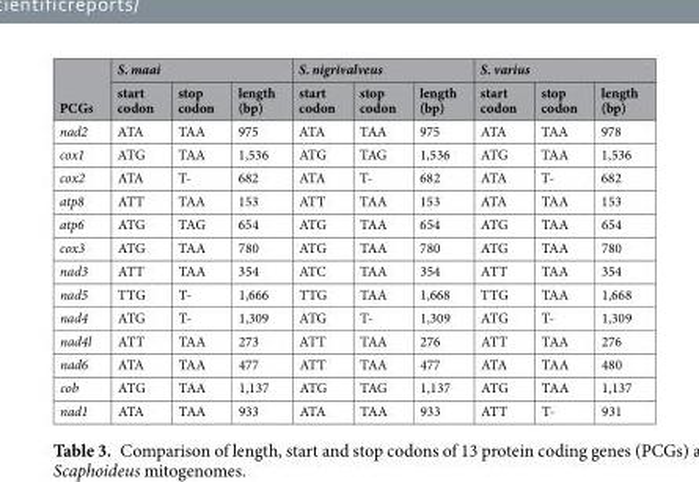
<table><thead><tr><td rowspan="2">PCGs</td><td colspan="3">S. maai</td><td colspan="3">S. nigrivalveus</td><td colspan="3">S. varius</td></tr><tr><td>start codon</td><td>stop codon</td><td>length (bp)</td><td>start codon</td><td>stop codon</td><td>length (bp)</td><td>start codon</td><td>stop codon</td><td>length (bp)</td></tr></thead><tbody><tr><td>nad2</td><td>ATA</td><td>TAA</td><td>975</td><td>ATA</td><td>TAA</td><td>975</td><td>ATA</td><td>TAA</td><td>978</td></tr><tr><td>cox1</td><td>ATG</td><td>TAA</td><td>1,536</td><td>ATG</td><td>TAG</td><td>1,536</td><td>ATG</td><td>TAA</td><td>1,536</td></tr><tr><td>cox2</td><td>ATA</td><td>T-</td><td>682</td><td>ATA</td><td>T-</td><td>682</td><td>ATA</td><td>T-</td><td>682</td></tr><tr><td>atp8</td><td>ATT</td><td>TAA</td><td>153</td><td>ATT</td><td>TAA</td><td>153</td><td>ATA</td><td>TAA</td><td>153</td></tr><tr><td>atp6</td><td>ATG</td><td>TAG</td><td>654</td><td>ATG</td><td>TAA</td><td>654</td><td>ATG</td><td>TAA</td><td>654</td></tr><tr><td>cox3</td><td>ATG</td><td>TAA</td><td>780</td><td>ATG</td><td>TAA</td><td>780</td><td>ATG</td><td>TAA</td><td>780</td></tr><tr><td>nad3</td><td>ATT</td><td>TAA</td><td>354</td><td>ATC</td><td>TAA</td><td>354</td><td>ATT</td><td>TAA</td><td>354</td></tr><tr><td>nad5</td><td>TTG</td><td>T-</td><td>1,666</td><td>TTG</td><td>TAA</td><td>1,668</td><td>TTG</td><td>TAA</td><td>1,668</td></tr><tr><td>nad4</td><td>ATG</td><td>T-</td><td>1,309</td><td>ATG</td><td>T-</td><td>1,309</td><td>ATG</td><td>T-</td><td>1,309</td></tr><tr><td>nad4l</td><td>ATT</td><td>TAA</td><td>273</td><td>ATT</td><td>TAA</td><td>276</td><td>ATT</td><td>TAA</td><td>276</td></tr><tr><td>nad6</td><td>ATA</td><td>TAA</td><td>477</td><td>ATT</td><td>TAA</td><td>477</td><td>ATA</td><td>TAA</td><td>480</td></tr><tr><td>cob</td><td>ATG</td><td>TAA</td><td>1,137</td><td>ATG</td><td>TAG</td><td>1,137</td><td>ATG</td><td>TAA</td><td>1,137</td></tr><tr><td>nad1</td><td>ATA</td><td>TAA</td><td>933</td><td>ATA</td><td>TAA</td><td>933</td><td>ATT</td><td>T-</td><td>931</td></tr></tbody></table>